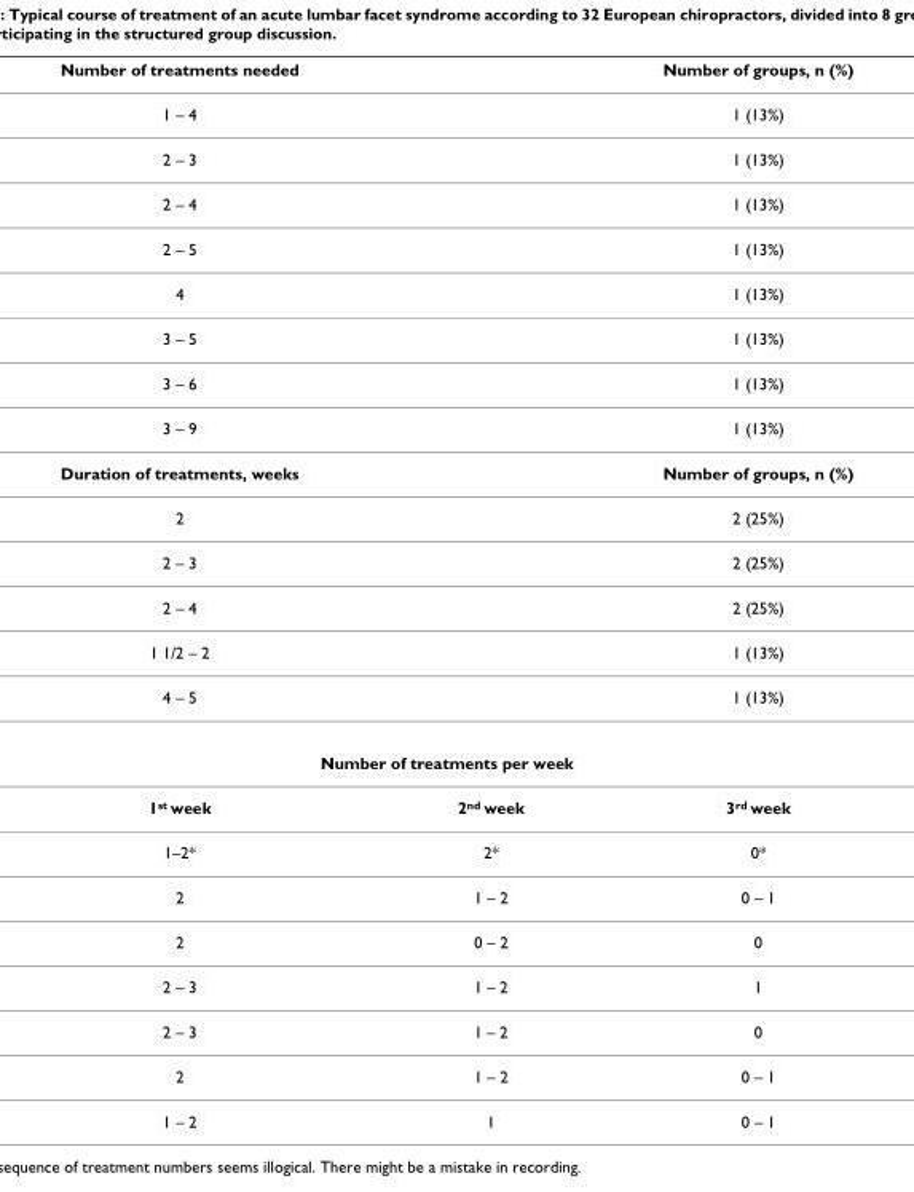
<table><thead><tr><td>Number of treatments needed</td><td></td><td>Number of groups, n (%)</td></tr></thead><tbody><tr><td>1 – 4</td><td></td><td>1 (13%)</td></tr><tr><td>2 – 3</td><td></td><td>1 (13%)</td></tr><tr><td>2 – 4</td><td></td><td>1 (13%)</td></tr><tr><td>2 – 5</td><td></td><td>1 (13%)</td></tr><tr><td>4</td><td></td><td>1 (13%)</td></tr><tr><td>3 – 5</td><td></td><td>1 (13%)</td></tr><tr><td>3 – 6</td><td></td><td>1 (13%)</td></tr><tr><td>3 – 9</td><td></td><td>1 (13%)</td></tr><tr><td>Duration of treatments, weeks</td><td></td><td>Number of groups, n (%)</td></tr><tr><td>2</td><td></td><td>2 (25%)</td></tr><tr><td>2 – 3</td><td></td><td>2 (25%)</td></tr><tr><td>2 – 4</td><td></td><td>2 (25%)</td></tr><tr><td>1 1/2 – 2</td><td></td><td>1 (13%)</td></tr><tr><td>4 – 5</td><td></td><td>1 (13%)</td></tr><tr><td colspan="3">Number of treatments per week</td></tr><tr><td>1<sup>st</sup> week</td><td>2<sup>nd</sup> week</td><td>3<sup>rd</sup> week</td></tr><tr><td>1–2*</td><td>2*</td><td>0*</td></tr><tr><td>2</td><td>1 – 2</td><td>0 – 1</td></tr><tr><td>2</td><td>0 – 2</td><td>0</td></tr><tr><td>2 – 3</td><td>1 – 2</td><td>1</td></tr><tr><td>2 – 3</td><td>1 – 2</td><td>0</td></tr><tr><td>2</td><td>1 – 2</td><td>0 – 1</td></tr><tr><td>1 – 2</td><td>1</td><td>0 – 1</td></tr></tbody></table>